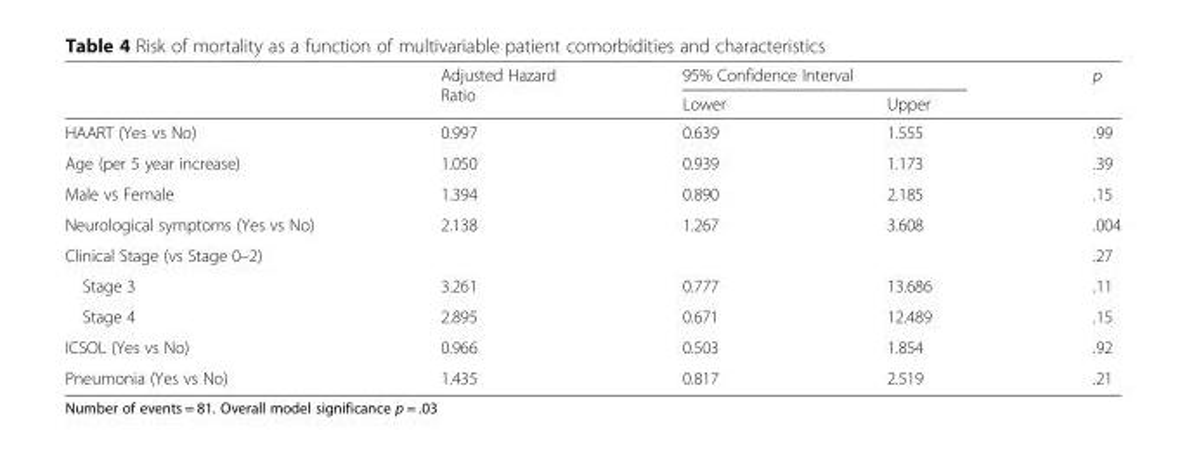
<table><thead><tr><td rowspan="2"></td><td rowspan="2">Adjusted Hazard Ratio</td><td colspan="2">95% Confidence Interval</td><td rowspan="2">p</td></tr><tr><td>Lower</td><td>Upper</td></tr></thead><tbody><tr><td>HAART (Yes vs No)</td><td>0.997</td><td>0.639</td><td>1.555</td><td>.99</td></tr><tr><td>Age (per 5 year increase)</td><td>1.050</td><td>0.939</td><td>1.173</td><td>.39</td></tr><tr><td>Male vs Female</td><td>1.394</td><td>0.890</td><td>2.185</td><td>.15</td></tr><tr><td>Neurological symptoms (Yes vs No)</td><td>2.138</td><td>1.267</td><td>3.608</td><td>.004</td></tr><tr><td>Clinical Stage (vs Stage 0–2)</td><td></td><td></td><td></td><td>.27</td></tr><tr><td>Stage 3</td><td>3.261</td><td>0.777</td><td>13.686</td><td>.11</td></tr><tr><td>Stage 4</td><td>2.895</td><td>0.671</td><td>12.489</td><td>.15</td></tr><tr><td>ICSOL (Yes vs No)</td><td>0.966</td><td>0.503</td><td>1.854</td><td>.92</td></tr><tr><td>Pneumonia (Yes vs No)</td><td>1.435</td><td>0.817</td><td>2.519</td><td>.21</td></tr></tbody></table>